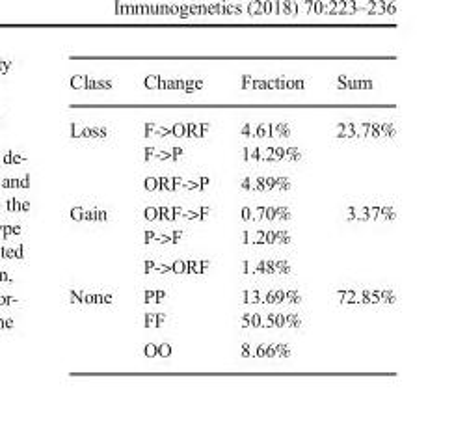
<table><thead><tr><td>Class</td><td>Change</td><td>Fraction</td><td>Sum</td></tr></thead><tbody><tr><td rowspan="3">Loss</td><td>F-&gt;ORF</td><td>4.61%</td><td rowspan="3">23.78%</td></tr><tr><td>F-&gt;P</td><td>14.29%</td></tr><tr><td>ORF-&gt;P</td><td>4.89%</td></tr><tr><td rowspan="3">Gain</td><td>ORF-&gt;F</td><td>0.70%</td><td rowspan="3">3.37%</td></tr><tr><td>P-&gt;F</td><td>1.20%</td></tr><tr><td>P-&gt;ORF</td><td>1.48%</td></tr><tr><td rowspan="3">None</td><td>PP</td><td>13.69%</td><td rowspan="3">72.85%</td></tr><tr><td>FF</td><td>50.50%</td></tr><tr><td>OO</td><td>8.66%</td></tr></tbody></table>